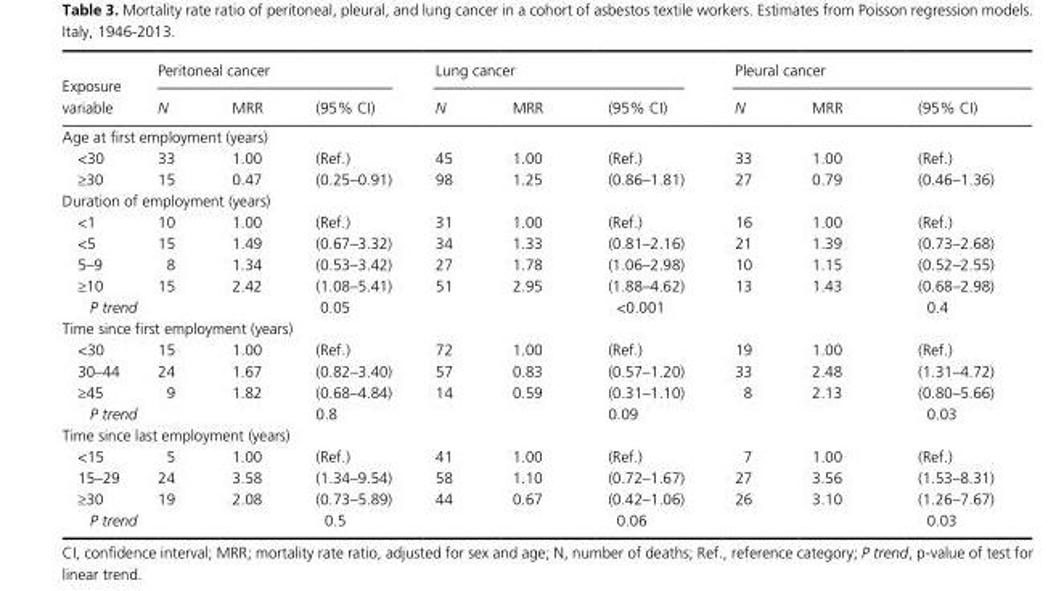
<table><thead><tr><td rowspan="2">Exposure variable</td><td colspan="3">Peritoneal cancer</td><td colspan="3">Lung cancer</td><td colspan="3">Pleural cancer</td></tr><tr><td>N</td><td>MRR</td><td>(95% CI)</td><td>N</td><td>MRR</td><td>(95% CI)</td><td>N</td><td>MRR</td><td>(95% CI)</td></tr></thead><tbody><tr><td colspan="10">Age at first employment (years)</td></tr><tr><td>&lt;30</td><td>33</td><td>1.00</td><td>(Ref.)</td><td>45</td><td>1.00</td><td>(Ref.)</td><td>33</td><td>1.00</td><td>(Ref.)</td></tr><tr><td>≥30</td><td>15</td><td>0.47</td><td>(0.25–0.91)</td><td>98</td><td>1.25</td><td>(0.86–1.81)</td><td>27</td><td>0.79</td><td>(0.46–1.36)</td></tr><tr><td colspan="10">Duration of employment (years)</td></tr><tr><td>&lt;1</td><td>10</td><td>1.00</td><td>(Ref.)</td><td>31</td><td>1.00</td><td>(Ref.)</td><td>16</td><td>1.00</td><td>(Ref.)</td></tr><tr><td>&lt;5</td><td>15</td><td>1.49</td><td>(0.67–3.32)</td><td>34</td><td>1.33</td><td>(0.81–2.16)</td><td>21</td><td>1.39</td><td>(0.73–2.68)</td></tr><tr><td>5–9</td><td>8</td><td>1.34</td><td>(0.53–3.42)</td><td>27</td><td>1.78</td><td>(1.06–2.98)</td><td>10</td><td>1.15</td><td>(0.52–2.55)</td></tr><tr><td>≥10</td><td>15</td><td>2.42</td><td>(1.08–5.41)</td><td>51</td><td>2.95</td><td>(1.88–4.62)</td><td>13</td><td>1.43</td><td>(0.68–2.98)</td></tr><tr><td>P trend</td><td></td><td></td><td>0.05</td><td></td><td></td><td>&lt;0.001</td><td></td><td></td><td>0.4</td></tr><tr><td colspan="10">Time since first employment (years)</td></tr><tr><td>&lt;30</td><td>15</td><td>1.00</td><td>(Ref.)</td><td>72</td><td>1.00</td><td>(Ref.)</td><td>19</td><td>1.00</td><td>(Ref.)</td></tr><tr><td>30–44</td><td>24</td><td>1.67</td><td>(0.82–3.40)</td><td>57</td><td>0.83</td><td>(0.57–1.20)</td><td>33</td><td>2.48</td><td>(1.31–4.72)</td></tr><tr><td>≥45</td><td>9</td><td>1.82</td><td>(0.68–4.84)</td><td>14</td><td>0.59</td><td>(0.31–1.10)</td><td>8</td><td>2.13</td><td>(0.80–5.66)</td></tr><tr><td>P trend</td><td></td><td></td><td>0.8</td><td></td><td></td><td>0.09</td><td></td><td></td><td>0.03</td></tr><tr><td colspan="10">Time since last employment (years)</td></tr><tr><td>&lt;15</td><td>5</td><td>1.00</td><td>(Ref.)</td><td>41</td><td>1.00</td><td>(Ref.)</td><td>7</td><td>1.00</td><td>(Ref.)</td></tr><tr><td>15–29</td><td>24</td><td>3.58</td><td>(1.34–9.54)</td><td>58</td><td>1.10</td><td>(0.72–1.67)</td><td>27</td><td>3.56</td><td>(1.53–8.31)</td></tr><tr><td>≥30</td><td>19</td><td>2.08</td><td>(0.73–5.89)</td><td>44</td><td>0.67</td><td>(0.42–1.06)</td><td>26</td><td>3.10</td><td>(1.26–7.67)</td></tr><tr><td>P trend</td><td></td><td></td><td>0.5</td><td></td><td></td><td>0.06</td><td></td><td></td><td>0.03</td></tr></tbody></table>